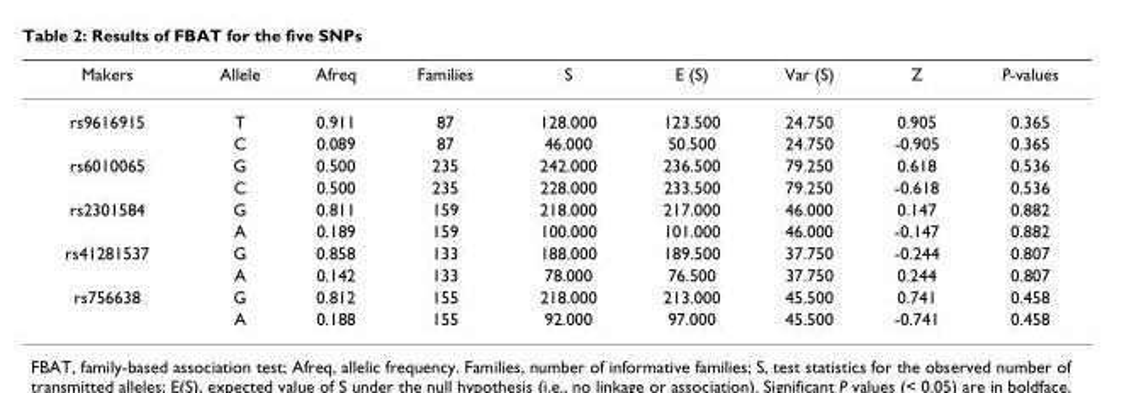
<table><thead><tr><td>Makers</td><td>Allele</td><td>Afreq</td><td>Families</td><td>S</td><td>E (S)</td><td>Var (S)</td><td>Z</td><td>P-values</td></tr></thead><tbody><tr><td rowspan="2">rs9616915</td><td>T</td><td>0.911</td><td>87</td><td>128.000</td><td>123.500</td><td>24.750</td><td>0.905</td><td>0.365</td></tr><tr><td>C</td><td>0.089</td><td>87</td><td>46.000</td><td>50.500</td><td>24.750</td><td>-0.905</td><td>0.365</td></tr><tr><td rowspan="2">rs6010065</td><td>G</td><td>0.500</td><td>235</td><td>242.000</td><td>236.500</td><td>79.250</td><td>0.618</td><td>0.536</td></tr><tr><td>C</td><td>0.500</td><td>235</td><td>228.000</td><td>233.500</td><td>79.250</td><td>-0.618</td><td>0.536</td></tr><tr><td rowspan="2">rs2301584</td><td>G</td><td>0.811</td><td>159</td><td>218.000</td><td>217.000</td><td>46.000</td><td>0.147</td><td>0.882</td></tr><tr><td>A</td><td>0.189</td><td>159</td><td>100.000</td><td>101.000</td><td>46.000</td><td>-0.147</td><td>0.882</td></tr><tr><td rowspan="2">rs41281537</td><td>G</td><td>0.858</td><td>133</td><td>188.000</td><td>189.500</td><td>37.750</td><td>-0.244</td><td>0.807</td></tr><tr><td>A</td><td>0.142</td><td>133</td><td>78.000</td><td>76.500</td><td>37.750</td><td>0.244</td><td>0.807</td></tr><tr><td rowspan="2">rs756638</td><td>G</td><td>0.812</td><td>155</td><td>218.000</td><td>213.000</td><td>45.500</td><td>0.741</td><td>0.458</td></tr><tr><td>A</td><td>0.188</td><td>155</td><td>92.000</td><td>97.000</td><td>45.500</td><td>-0.741</td><td>0.458</td></tr></tbody></table>